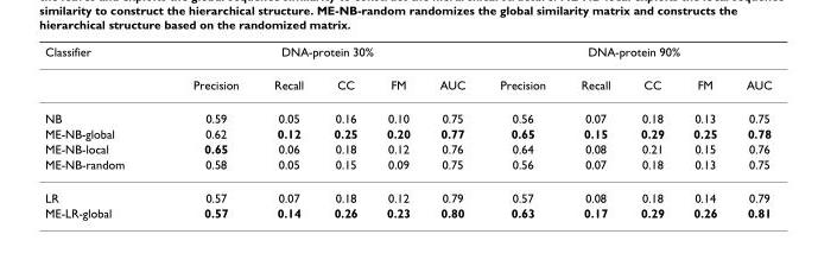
<table><thead><tr><td rowspan="2">Classifier</td><td colspan="5">DNA-protein 30%</td><td colspan="5">DNA-protein 90%</td></tr><tr><td>Precision</td><td>Recall</td><td>CC</td><td>FM</td><td>AUC</td><td>Precision</td><td>Recall</td><td>CC</td><td>FM</td><td>AUC</td></tr></thead><tbody><tr><td>NB</td><td>0.59</td><td>0.05</td><td>0.16</td><td>0.10</td><td>0.75</td><td>0.56</td><td>0.07</td><td>0.18</td><td>0.13</td><td>0.75</td></tr><tr><td>ME-NB-global</td><td>0.62</td><td>0.12</td><td>0.25</td><td>0.20</td><td>0.77</td><td>0.65</td><td>0.15</td><td>0.29</td><td>0.25</td><td>0.78</td></tr><tr><td>ME-NB-local</td><td>0.65</td><td>0.06</td><td>0.18</td><td>0.12</td><td>0.76</td><td>0.64</td><td>0.08</td><td>0.21</td><td>0.15</td><td>0.76</td></tr><tr><td>ME-NB-random</td><td>0.58</td><td>0.05</td><td>0.15</td><td>0.09</td><td>0.75</td><td>0.56</td><td>0.07</td><td>0.18</td><td>0.13</td><td>0.75</td></tr><tr><td>LR</td><td>0.57</td><td>0.07</td><td>0.18</td><td>0.12</td><td>0.79</td><td>0.57</td><td>0.08</td><td>0.18</td><td>0.14</td><td>0.79</td></tr><tr><td>ME-LR-global</td><td>0.57</td><td>0.14</td><td>0.26</td><td>0.23</td><td>0.80</td><td>0.63</td><td>0.17</td><td>0.29</td><td>0.26</td><td>0.81</td></tr></tbody></table>